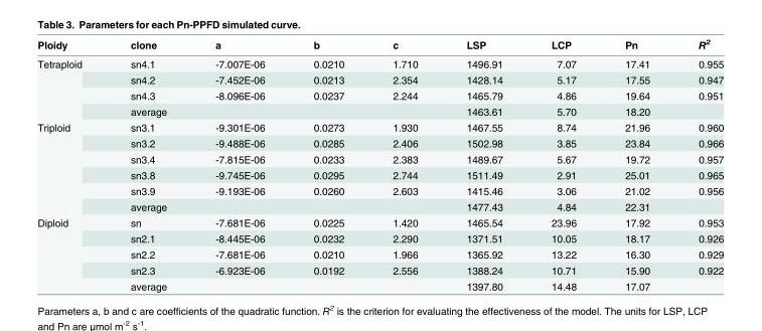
<table><thead><tr><td>Ploidy</td><td>clone</td><td>a</td><td>b</td><td>c</td><td>LSP</td><td>LCP</td><td>Pn</td><td>R<sup>2</sup></td></tr></thead><tbody><tr><td rowspan="4">Tetraploid</td><td>sn4.1</td><td>-7.007E-06</td><td>0.0210</td><td>1.710</td><td>1496.91</td><td>7.07</td><td>17.41</td><td>0.955</td></tr><tr><td>sn4.2</td><td>-7.452E-06</td><td>0.0213</td><td>2.354</td><td>1428.14</td><td>5.17</td><td>17.55</td><td>0.947</td></tr><tr><td>sn4.3</td><td>-8.096E-06</td><td>0.0237</td><td>2.244</td><td>1465.79</td><td>4.86</td><td>19.64</td><td>0.951</td></tr><tr><td>average</td><td></td><td></td><td></td><td>1463.61</td><td>5.70</td><td>18.20</td><td></td></tr><tr><td rowspan="6">Triploid</td><td>sn3.1</td><td>-9.301E-06</td><td>0.0273</td><td>1.930</td><td>1467.55</td><td>8.74</td><td>21.96</td><td>0.960</td></tr><tr><td>sn3.2</td><td>-9.488E-06</td><td>0.0285</td><td>2.406</td><td>1502.98</td><td>3.85</td><td>23.84</td><td>0.966</td></tr><tr><td>sn3.4</td><td>-7.815E-06</td><td>0.0233</td><td>2.383</td><td>1489.67</td><td>5.67</td><td>19.72</td><td>0.957</td></tr><tr><td>sn3.8</td><td>-9.745E-06</td><td>0.0295</td><td>2.744</td><td>1511.49</td><td>2.91</td><td>25.01</td><td>0.965</td></tr><tr><td>sn3.9</td><td>-9.193E-06</td><td>0.0260</td><td>2.603</td><td>1415.46</td><td>3.06</td><td>21.02</td><td>0.956</td></tr><tr><td>average</td><td></td><td></td><td></td><td>1477.43</td><td>4.84</td><td>22.31</td><td></td></tr><tr><td rowspan="5">Diploid</td><td>sn</td><td>-7.681E-06</td><td>0.0225</td><td>1.420</td><td>1465.54</td><td>23.96</td><td>17.92</td><td>0.953</td></tr><tr><td>sn2.1</td><td>-8.445E-06</td><td>0.0232</td><td>2.290</td><td>1371.51</td><td>10.05</td><td>18.17</td><td>0.926</td></tr><tr><td>sn2.2</td><td>-7.681E-06</td><td>0.0210</td><td>1.966</td><td>1365.92</td><td>13.22</td><td>16.30</td><td>0.929</td></tr><tr><td>sn2.3</td><td>-6.923E-06</td><td>0.0192</td><td>2.556</td><td>1388.24</td><td>10.71</td><td>15.90</td><td>0.922</td></tr><tr><td>average</td><td></td><td></td><td></td><td>1397.80</td><td>14.48</td><td>17.07</td><td></td></tr></tbody></table>